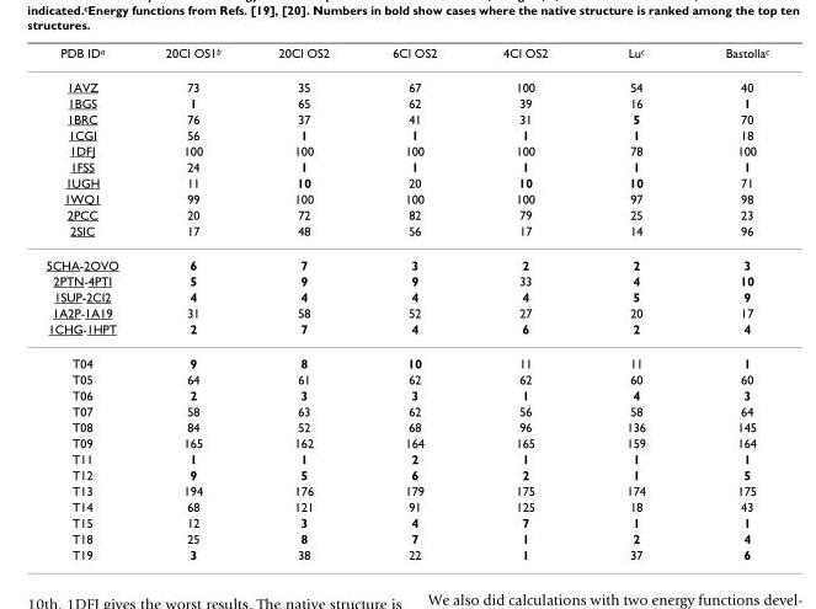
<table><thead><tr><td>PDB ID<sup>a</sup></td><td>20Cl OS1<sup>b</sup></td><td>20Cl OS2</td><td>6Cl OS2</td><td>4Cl OS2</td><td>Lu<sup>c</sup></td><td>Bastolla<sup>c</sup></td></tr></thead><tbody><tr><td>1AVZ</td><td>73</td><td>35</td><td>67</td><td>100</td><td>54</td><td>40</td></tr><tr><td>1BGS</td><td>1</td><td>65</td><td>62</td><td>39</td><td>16</td><td>1</td></tr><tr><td>1BRC</td><td>76</td><td>37</td><td>41</td><td>31</td><td>5</td><td>70</td></tr><tr><td>1CGI</td><td>56</td><td>1</td><td>1</td><td>1</td><td>1</td><td>18</td></tr><tr><td>1DFJ</td><td>100</td><td>100</td><td>100</td><td>100</td><td>78</td><td>100</td></tr><tr><td>1FSS</td><td>24</td><td>1</td><td>1</td><td>1</td><td>1</td><td>1</td></tr><tr><td>1UGH</td><td>11</td><td>10</td><td>20</td><td>10</td><td>10</td><td>71</td></tr><tr><td>1WQ1</td><td>99</td><td>100</td><td>100</td><td>100</td><td>97</td><td>98</td></tr><tr><td>2PCC</td><td>20</td><td>72</td><td>82</td><td>79</td><td>25</td><td>23</td></tr><tr><td>2SIC</td><td>17</td><td>48</td><td>56</td><td>17</td><td>14</td><td>96</td></tr><tr><td>5CHA-2OVO</td><td>6</td><td>7</td><td>3</td><td>2</td><td>2</td><td>3</td></tr><tr><td>2PTN-4PTI</td><td>5</td><td>9</td><td>9</td><td>33</td><td>4</td><td>10</td></tr><tr><td>1SUP-2CI2</td><td>4</td><td>4</td><td>4</td><td>4</td><td>5</td><td>9</td></tr><tr><td>1A2P-1A19</td><td>31</td><td>58</td><td>52</td><td>27</td><td>20</td><td>17</td></tr><tr><td>1CHG-1HPT</td><td>2</td><td>7</td><td>4</td><td>6</td><td>2</td><td>4</td></tr><tr><td>T04</td><td>9</td><td>8</td><td>10</td><td>11</td><td>11</td><td>1</td></tr><tr><td>T05</td><td>64</td><td>61</td><td>62</td><td>62</td><td>60</td><td>60</td></tr><tr><td>T06</td><td>2</td><td>3</td><td>3</td><td>1</td><td>4</td><td>3</td></tr><tr><td>T07</td><td>58</td><td>63</td><td>62</td><td>56</td><td>58</td><td>64</td></tr><tr><td>T08</td><td>84</td><td>52</td><td>68</td><td>96</td><td>136</td><td>145</td></tr><tr><td>T09</td><td>165</td><td>162</td><td>164</td><td>165</td><td>159</td><td>164</td></tr><tr><td>T11</td><td>1</td><td>1</td><td>2</td><td>1</td><td>1</td><td>1</td></tr><tr><td>T12</td><td>9</td><td>5</td><td>6</td><td>2</td><td>1</td><td>5</td></tr><tr><td>T13</td><td>194</td><td>176</td><td>179</td><td>175</td><td>174</td><td>175</td></tr><tr><td>T14</td><td>68</td><td>121</td><td>91</td><td>125</td><td>18</td><td>43</td></tr><tr><td>T15</td><td>12</td><td>3</td><td>4</td><td>7</td><td>1</td><td>1</td></tr><tr><td>T18</td><td>25</td><td>8</td><td>7</td><td>1</td><td>2</td><td>4</td></tr><tr><td>T19</td><td>3</td><td>38</td><td>22</td><td>1</td><td>37</td><td>6</td></tr></tbody></table>